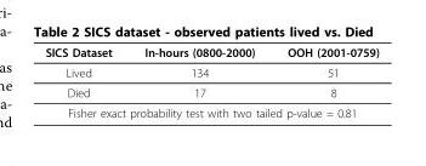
<table><thead><tr><td>SICS Dataset</td><td>In-hours (0800-2000)</td><td>OOH (2001-0759)</td></tr></thead><tbody><tr><td>Lived</td><td>134</td><td>51</td></tr><tr><td>Died</td><td>17</td><td>8</td></tr><tr><td colspan="3">Fisher exact probability test with two tailed p-value = 0.81</td></tr></tbody></table>